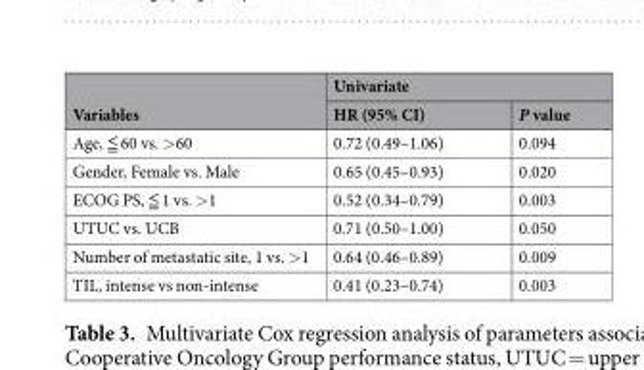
<table><thead><tr><td rowspan="2">Variables</td><td colspan="2">Univariate</td></tr><tr><td>HR (95% CI)</td><td>P value</td></tr></thead><tbody><tr><td>Age, ≦ 60 vs. &gt;60</td><td>0.72 (0.49–1.06)</td><td>0.094</td></tr><tr><td>Gender, Female vs. Male</td><td>0.65 (0.45–0.93)</td><td>0.020</td></tr><tr><td>ECOG PS, ≦ 1 vs. &gt;1</td><td>0.52 (0.34–0.79)</td><td>0.003</td></tr><tr><td>UTUC vs. UCB</td><td>0.71 (0.50–1.00)</td><td>0.050</td></tr><tr><td>Number of metastatic site, 1 vs. &gt;1</td><td>0.64 (0.46–0.89)</td><td>0.009</td></tr><tr><td>TIL, intense vs non-intense</td><td>0.41 (0.23–0.74)</td><td>0.003</td></tr></tbody></table>